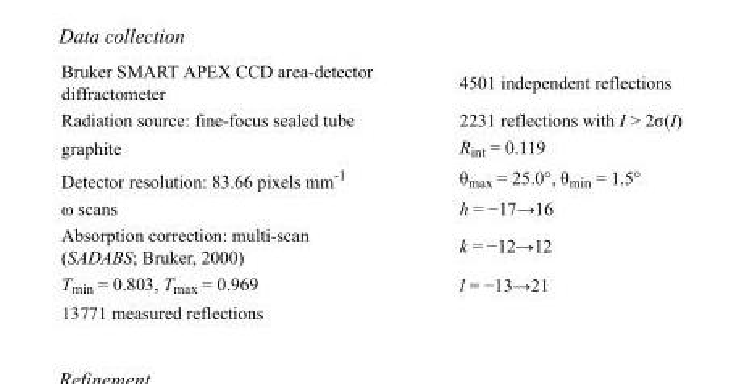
<table><tbody><tr><td>Bruker SMART APEX CCD area-detector diffractometer</td><td>4501 independent reflections</td></tr><tr><td>Radiation source: fine-focus sealed tube</td><td>2231 reflections with I &gt; 2σ(I)</td></tr><tr><td>graphite</td><td>R<sub>int</sub> = 0.119</td></tr><tr><td>Detector resolution: 83.66 pixels mm<sup>-1</sup></td><td>θ<sub>max</sub> = 25.0°, θ<sub>min</sub> = 1.5°</td></tr><tr><td>ω scans</td><td>h = −17→16</td></tr><tr><td>Absorption correction: multi-scan (SADABS; Bruker, 2000)</td><td>k = −12→12</td></tr><tr><td>T<sub>min</sub> = 0.803, T<sub>max</sub> = 0.969</td><td>l = −13→21</td></tr><tr><td>13771 measured reflections</td><td></td></tr></tbody></table>